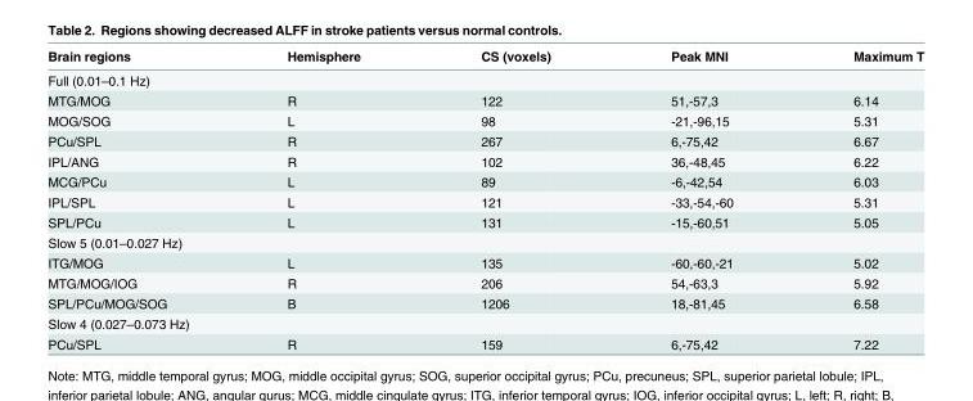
<table><thead><tr><td>Brain regions</td><td>Hemisphere</td><td>CS (voxels)</td><td>Peak MNI</td><td>Maximum T</td></tr></thead><tbody><tr><td colspan="5">Full (0.01–0.1 Hz)</td></tr><tr><td>MTG/MOG</td><td>R</td><td>122</td><td>51,-57,3</td><td>6.14</td></tr><tr><td>MOG/SOG</td><td>L</td><td>98</td><td>-21,-96,15</td><td>5.31</td></tr><tr><td>PCu/SPL</td><td>R</td><td>267</td><td>6,-75,42</td><td>6.67</td></tr><tr><td>IPL/ANG</td><td>R</td><td>102</td><td>36,-48,45</td><td>6.22</td></tr><tr><td>MCG/PCu</td><td>L</td><td>89</td><td>-6,-42,54</td><td>6.03</td></tr><tr><td>IPL/SPL</td><td>L</td><td>121</td><td>-33,-54,-60</td><td>5.31</td></tr><tr><td>SPL/PCu</td><td>L</td><td>131</td><td>-15,-60,51</td><td>5.05</td></tr><tr><td colspan="5">Slow 5 (0.01–0.027 Hz)</td></tr><tr><td>ITG/MOG</td><td>L</td><td>135</td><td>-60,-60,-21</td><td>5.02</td></tr><tr><td>MTG/MOG/IOG</td><td>R</td><td>206</td><td>54,-63,3</td><td>5.92</td></tr><tr><td>SPL/PCu/MOG/SOG</td><td>B</td><td>1206</td><td>18,-81,45</td><td>6.58</td></tr><tr><td colspan="5">Slow 4 (0.027–0.073 Hz)</td></tr><tr><td>PCu/SPL</td><td>R</td><td>159</td><td>6,-75,42</td><td>7.22</td></tr></tbody></table>